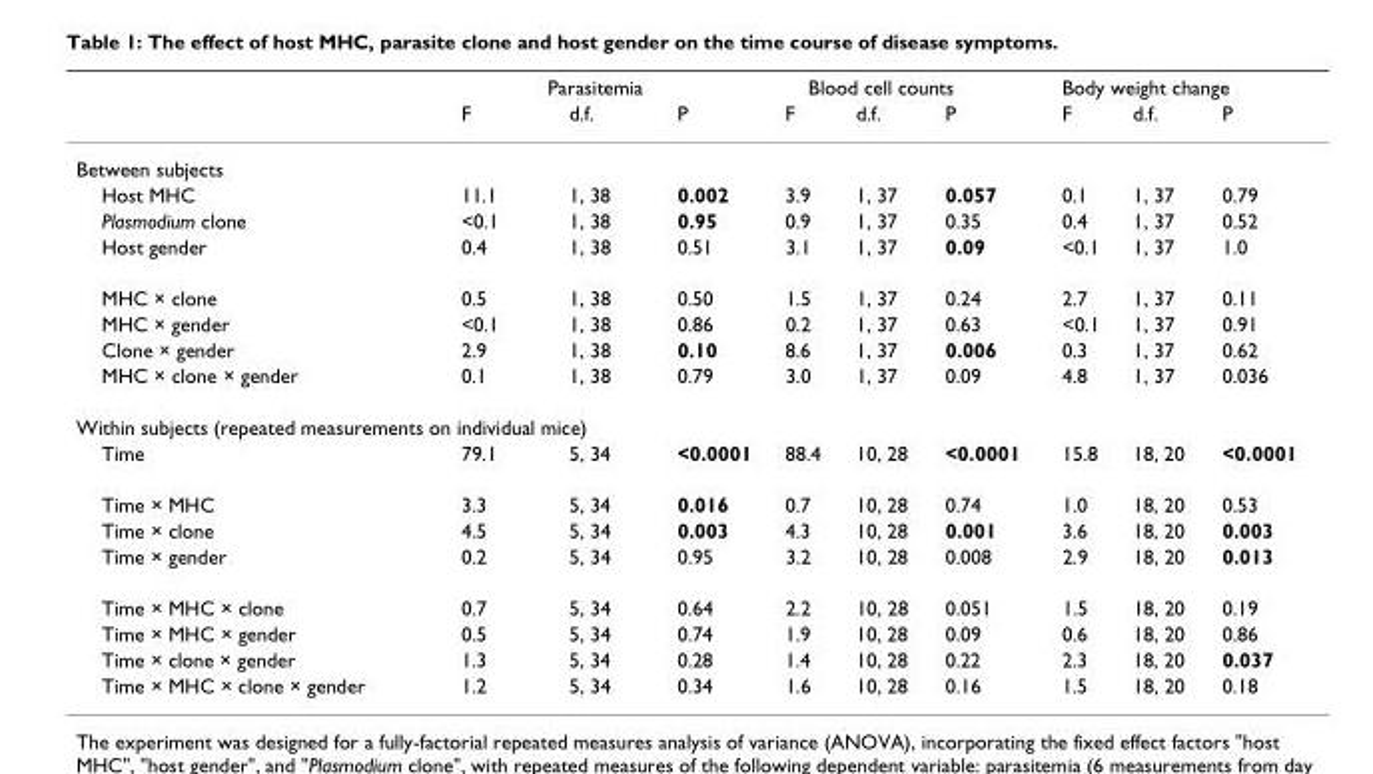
<table><thead><tr><td rowspan="2"></td><td colspan="3">Parasitemia</td><td colspan="3">Blood cell counts</td><td colspan="3">Body weight change</td></tr><tr><td>F</td><td>d.f.</td><td>P</td><td>F</td><td>d.f.</td><td>P</td><td>F</td><td>d.f.</td><td>P</td></tr></thead><tbody><tr><td colspan="10">Between subjects</td></tr><tr><td>Host MHC</td><td>11.1</td><td>1, 38</td><td>0.002</td><td>3.9</td><td>1, 37</td><td>0.057</td><td>0.1</td><td>1, 37</td><td>0.79</td></tr><tr><td>Plasmodium clone</td><td>&lt;0.1</td><td>1, 38</td><td>0.95</td><td>0.9</td><td>1, 37</td><td>0.35</td><td>0.4</td><td>1, 37</td><td>0.52</td></tr><tr><td>Host gender</td><td>0.4</td><td>1, 38</td><td>0.51</td><td>3.1</td><td>1, 37</td><td>0.09</td><td>&lt;0.1</td><td>1, 37</td><td>1.0</td></tr><tr><td>MHC × clone</td><td>0.5</td><td>1, 38</td><td>0.50</td><td>1.5</td><td>1, 37</td><td>0.24</td><td>2.7</td><td>1, 37</td><td>0.11</td></tr><tr><td>MHC × gender</td><td>&lt;0.1</td><td>1, 38</td><td>0.86</td><td>0.2</td><td>1, 37</td><td>0.63</td><td>&lt;0.1</td><td>1, 37</td><td>0.91</td></tr><tr><td>Clone × gender</td><td>2.9</td><td>1, 38</td><td>0.10</td><td>8.6</td><td>1, 37</td><td>0.006</td><td>0.3</td><td>1, 37</td><td>0.62</td></tr><tr><td>MHC × clone × gender</td><td>0.1</td><td>1, 38</td><td>0.79</td><td>3.0</td><td>1, 37</td><td>0.09</td><td>4.8</td><td>1, 37</td><td>0.036</td></tr><tr><td colspan="10">Within subjects (repeated measurements on individual mice)</td></tr><tr><td>Time</td><td>79.1</td><td>5, 34</td><td>&lt;0.0001</td><td>88.4</td><td>10, 28</td><td>&lt;0.0001</td><td>15.8</td><td>18, 20</td><td>&lt;0.0001</td></tr><tr><td>Time × MHC</td><td>3.3</td><td>5, 34</td><td>0.016</td><td>0.7</td><td>10, 28</td><td>0.74</td><td>1.0</td><td>18, 20</td><td>0.53</td></tr><tr><td>Time × clone</td><td>4.5</td><td>5, 34</td><td>0.003</td><td>4.3</td><td>10, 28</td><td>0.001</td><td>3.6</td><td>18, 20</td><td>0.003</td></tr><tr><td>Time × gender</td><td>0.2</td><td>5, 34</td><td>0.95</td><td>3.2</td><td>10, 28</td><td>0.008</td><td>2.9</td><td>18, 20</td><td>0.013</td></tr><tr><td>Time × MHC × clone</td><td>0.7</td><td>5, 34</td><td>0.64</td><td>2.2</td><td>10, 28</td><td>0.051</td><td>1.5</td><td>18, 20</td><td>0.19</td></tr><tr><td>Time × MHC × gender</td><td>0.5</td><td>5, 34</td><td>0.74</td><td>1.9</td><td>10, 28</td><td>0.09</td><td>0.6</td><td>18, 20</td><td>0.86</td></tr><tr><td>Time × clone × gender</td><td>1.3</td><td>5, 34</td><td>0.28</td><td>1.4</td><td>10, 28</td><td>0.22</td><td>2.3</td><td>18, 20</td><td>0.037</td></tr><tr><td>Time × MHC × clone × gender</td><td>1.2</td><td>5, 34</td><td>0.34</td><td>1.6</td><td>10, 28</td><td>0.16</td><td>1.5</td><td>18, 20</td><td>0.18</td></tr></tbody></table>